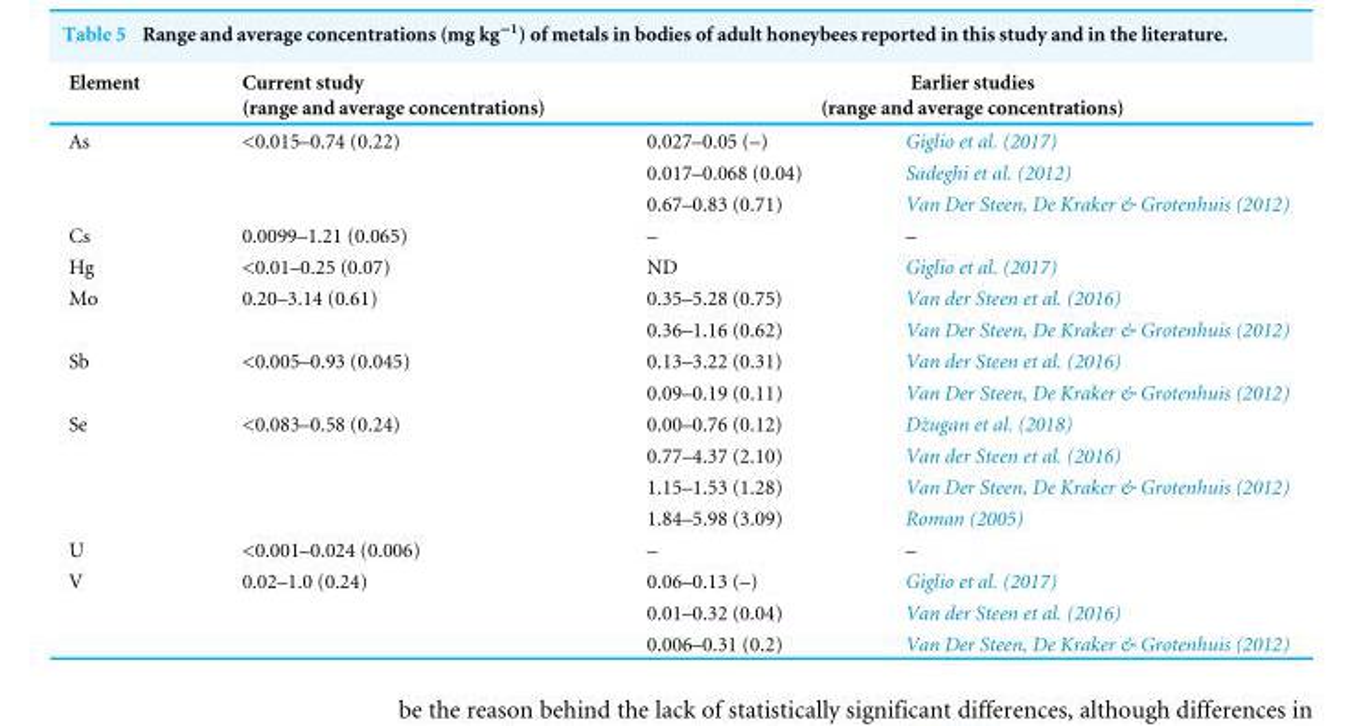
<table><thead><tr><td rowspan="2">Element As</td><td rowspan="2">Current study (range and average concentrations) &lt;0.015–0.74 (0.22)</td><td colspan="2">Earlier studies (range and average concentrations)</td></tr><tr><td>0.027–0.05 (–)</td><td>Giglio et al. (2017)</td></tr></thead><tbody><tr><td></td><td></td><td>0.017–0.068 (0.04)</td><td>Sadeghi et al. (2012)</td></tr><tr><td></td><td></td><td>0.67–0.83 (0.71)</td><td>Van Der Steen, De Kraker &amp; Grotenhuis (2012)</td></tr><tr><td>Cs</td><td>0.0099–1.21 (0.065)</td><td>–</td><td>–</td></tr><tr><td>Hg</td><td>&lt;0.01–0.25 (0.07)</td><td>ND</td><td>Giglio et al. (2017)</td></tr><tr><td rowspan="2">Mo</td><td>0.20–3.14 (0.61)</td><td>0.35–5.28 (0.75)</td><td>Van der Steen et al. (2016)</td></tr><tr><td></td><td>0.36–1.16 (0.62)</td><td>Van Der Steen, De Kraker &amp; Grotenhuis (2012)</td></tr><tr><td rowspan="2">Sb</td><td>&lt;0.005–0.93 (0.045)</td><td>0.13–3.22 (0.31)</td><td>Van der Steen et al. (2016)</td></tr><tr><td></td><td>0.09–0.19 (0.11)</td><td>Van Der Steen, De Kraker &amp; Grotenhuis (2012)</td></tr><tr><td rowspan="4">Se</td><td>&lt;0.083–0.58 (0.24)</td><td>0.00–0.76 (0.12)</td><td>Dżugan et al. (2018)</td></tr><tr><td></td><td>0.77–4.37 (2.10)</td><td>Van der Steen et al. (2016)</td></tr><tr><td></td><td>1.15–1.53 (1.28)</td><td>Van Der Steen, De Kraker &amp; Grotenhuis (2012)</td></tr><tr><td></td><td>1.84–5.98 (3.09)</td><td>Roman (2005)</td></tr><tr><td>U</td><td>&lt;0.001–0.024 (0.006)</td><td>–</td><td>–</td></tr><tr><td rowspan="3">V</td><td>0.02–1.0 (0.24)</td><td>0.06–0.13 (–)</td><td>Giglio et al. (2017)</td></tr><tr><td></td><td>0.01–0.32 (0.04)</td><td>Van der Steen et al. (2016)</td></tr><tr><td></td><td>0.006–0.31 (0.2)</td><td>Van Der Steen, De Kraker &amp; Grotenhuis (2012)</td></tr></tbody></table>